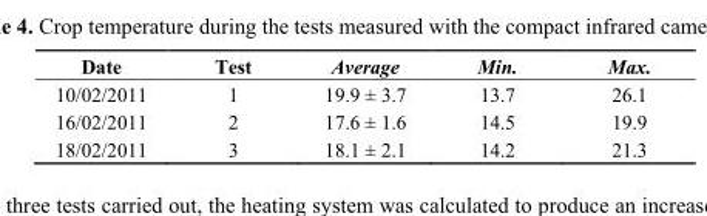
<table><thead><tr><td>Date</td><td>Test</td><td>Average</td><td>Min.</td><td>Max.</td></tr></thead><tbody><tr><td>10/02/2011</td><td>1</td><td>19.9 ± 3.7</td><td>13.7</td><td>26.1</td></tr><tr><td>16/02/2011</td><td>2</td><td>17.6 ± 1.6</td><td>14.5</td><td>19.9</td></tr><tr><td>18/02/2011</td><td>3</td><td>18.1 ± 2.1</td><td>14.2</td><td>21.3</td></tr></tbody></table>